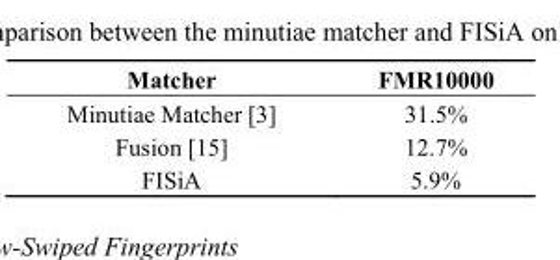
<table><thead><tr><td>Matcher</td><td>FMR10000</td></tr></thead><tbody><tr><td>Minutiae Matcher [3]</td><td>31.5%</td></tr><tr><td>Fusion [15]</td><td>12.7%</td></tr><tr><td>FISiA</td><td>5.9%</td></tr></tbody></table>